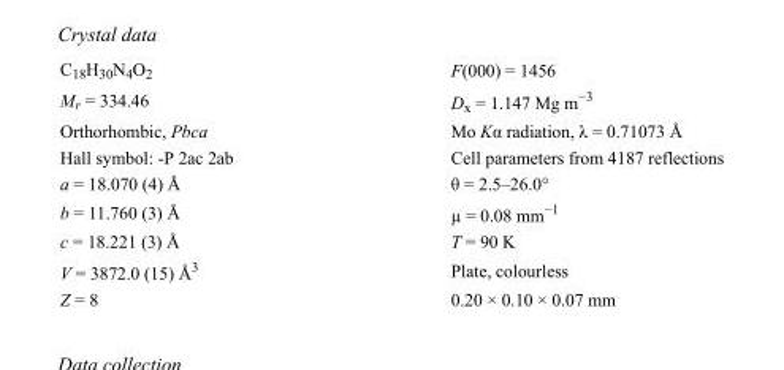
<table><tbody><tr><td>C<sub>18</sub>H<sub>30</sub>N<sub>4</sub>O<sub>2</sub></td><td>F(000) = 1456</td></tr><tr><td>M<sub>r</sub> = 334.46</td><td>D<sub>x</sub> = 1.147 Mg m<sup>−3</sup></td></tr><tr><td>Orthorhombic, Pbca</td><td>Mo Kα radiation, λ = 0.71073 Å</td></tr><tr><td>Hall symbol: -P 2ac 2ab</td><td>Cell parameters from 4187 reflections</td></tr><tr><td>a = 18.070 (4) Å</td><td>θ = 2.5–26.0°</td></tr><tr><td>b = 11.760 (3) Å</td><td>µ = 0.08 mm<sup>−1</sup></td></tr><tr><td>c = 18.221 (3) Å</td><td>T = 90 K</td></tr><tr><td>V = 3872.0 (15) Å<sup>3</sup></td><td>Plate, colourless</td></tr><tr><td>Z = 8</td><td>0.20 × 0.10 × 0.07 mm</td></tr></tbody></table>